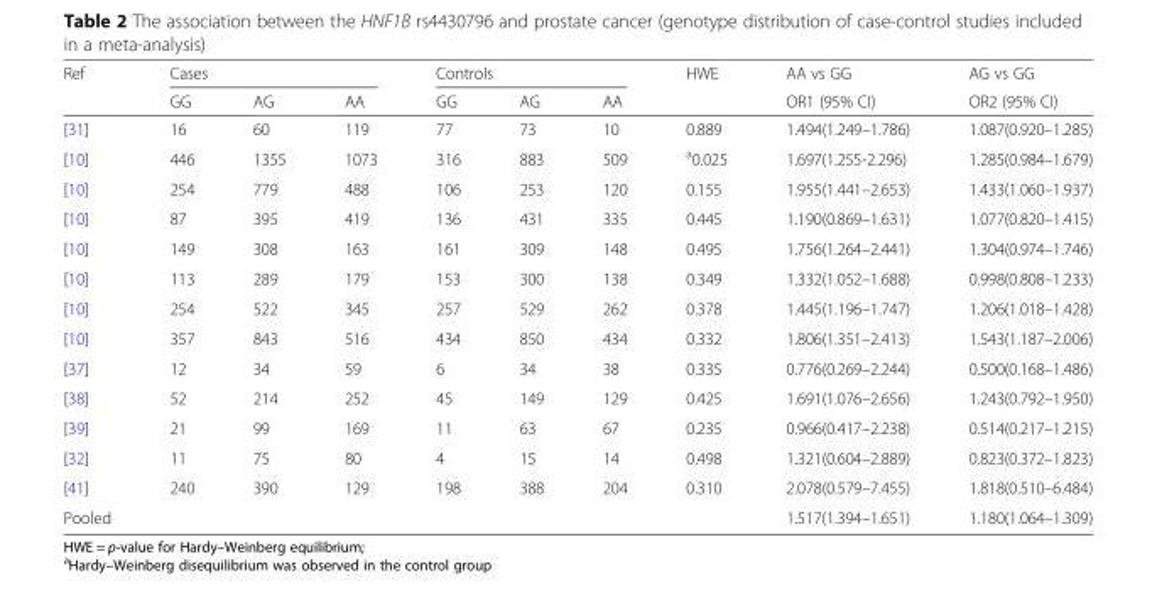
<table><thead><tr><td rowspan="2">Ref</td><td colspan="3">Cases</td><td colspan="3">Controls</td><td rowspan="2">HWE</td><td rowspan="2">AA vs GG OR1 (95% CI)</td><td rowspan="2">AG vs GG OR2 (95% CI)</td></tr><tr><td>GG</td><td>AG</td><td>AA</td><td>GG</td><td>AG</td><td>AA</td></tr></thead><tbody><tr><td>[31]</td><td>16</td><td>60</td><td>119</td><td>77</td><td>73</td><td>10</td><td>0.889</td><td>1.494(1.249–1.786)</td><td>1.087(0.920–1.285)</td></tr><tr><td>[10]</td><td>446</td><td>1355</td><td>1073</td><td>316</td><td>883</td><td>509</td><td><sup>a</sup>0.025</td><td>1.697(1.255-2.296)</td><td>1.285(0.984–1.679)</td></tr><tr><td>[10]</td><td>254</td><td>779</td><td>488</td><td>106</td><td>253</td><td>120</td><td>0.155</td><td>1.955(1.441–2.653)</td><td>1.433(1.060–1.937)</td></tr><tr><td>[10]</td><td>87</td><td>395</td><td>419</td><td>136</td><td>431</td><td>335</td><td>0.445</td><td>1.190(0.869–1.631)</td><td>1.077(0.820–1.415)</td></tr><tr><td>[10]</td><td>149</td><td>308</td><td>163</td><td>161</td><td>309</td><td>148</td><td>0.495</td><td>1.756(1.264–2.441)</td><td>1.304(0.974–1.746)</td></tr><tr><td>[10]</td><td>113</td><td>289</td><td>179</td><td>153</td><td>300</td><td>138</td><td>0.349</td><td>1.332(1.052–1.688)</td><td>0.998(0.808–1.233)</td></tr><tr><td>[10]</td><td>254</td><td>522</td><td>345</td><td>257</td><td>529</td><td>262</td><td>0.378</td><td>1.445(1.196–1.747)</td><td>1.206(1.018–1.428)</td></tr><tr><td>[10]</td><td>357</td><td>843</td><td>516</td><td>434</td><td>850</td><td>434</td><td>0.332</td><td>1.806(1.351–2.413)</td><td>1.543(1.187–2.006)</td></tr><tr><td>[37]</td><td>12</td><td>34</td><td>59</td><td>6</td><td>34</td><td>38</td><td>0.335</td><td>0.776(0.269–2.244)</td><td>0.500(0.168–1.486)</td></tr><tr><td>[38]</td><td>52</td><td>214</td><td>252</td><td>45</td><td>149</td><td>129</td><td>0.425</td><td>1.691(1.076–2.656)</td><td>1.243(0.792–1.950)</td></tr><tr><td>[39]</td><td>21</td><td>99</td><td>169</td><td>11</td><td>63</td><td>67</td><td>0.235</td><td>0.966(0.417–2.238)</td><td>0.514(0.217–1.215)</td></tr><tr><td>[32]</td><td>11</td><td>75</td><td>80</td><td>4</td><td>15</td><td>14</td><td>0.498</td><td>1.321(0.604–2.889)</td><td>0.823(0.372–1.823)</td></tr><tr><td>[41]</td><td>240</td><td>390</td><td>129</td><td>198</td><td>388</td><td>204</td><td>0.310</td><td>2.078(0.579–7.455)</td><td>1.818(0.510–6.484)</td></tr><tr><td>Pooled</td><td></td><td></td><td></td><td></td><td></td><td></td><td></td><td>1.517(1.394–1.651)</td><td>1.180(1.064–1.309)</td></tr></tbody></table>